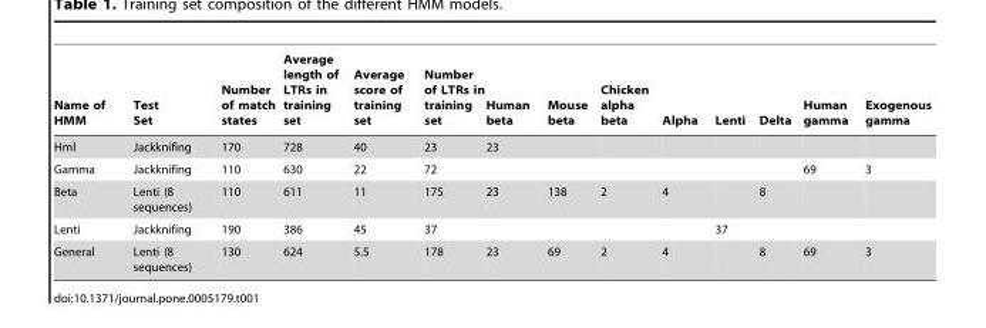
<table><thead><tr><td>Name of HMM</td><td>Test Set</td><td>Number of match states</td><td>Average length of LTRs in training set</td><td>Average score of training set</td><td>Number of LTRs in training set</td><td>Human beta</td><td>Mouse beta</td><td>Chicken alpha beta</td><td>Alpha</td><td>Lenti</td><td>Delta</td><td>Human gamma</td><td>Exogenous gamma</td></tr></thead><tbody><tr><td>Hml</td><td>Jackknifing</td><td>170</td><td>728</td><td>40</td><td>23</td><td>23</td><td></td><td></td><td></td><td></td><td></td><td></td><td></td></tr><tr><td>Gamma</td><td>Jackknifing</td><td>110</td><td>630</td><td>22</td><td>72</td><td></td><td></td><td></td><td></td><td></td><td></td><td>69</td><td>3</td></tr><tr><td>Beta</td><td>Lenti (8 sequences)</td><td>110</td><td>611</td><td>11</td><td>175</td><td>23</td><td>138</td><td>2</td><td>4</td><td></td><td>8</td><td></td><td></td></tr><tr><td>Lenti</td><td>Jackknifing</td><td>190</td><td>386</td><td>45</td><td>37</td><td></td><td></td><td></td><td></td><td>37</td><td></td><td></td><td></td></tr><tr><td>General</td><td>Lenti (8 sequences)</td><td>130</td><td>624</td><td>5.5</td><td>178</td><td>23</td><td>69</td><td>2</td><td>4</td><td></td><td>8</td><td>69</td><td>3</td></tr></tbody></table>